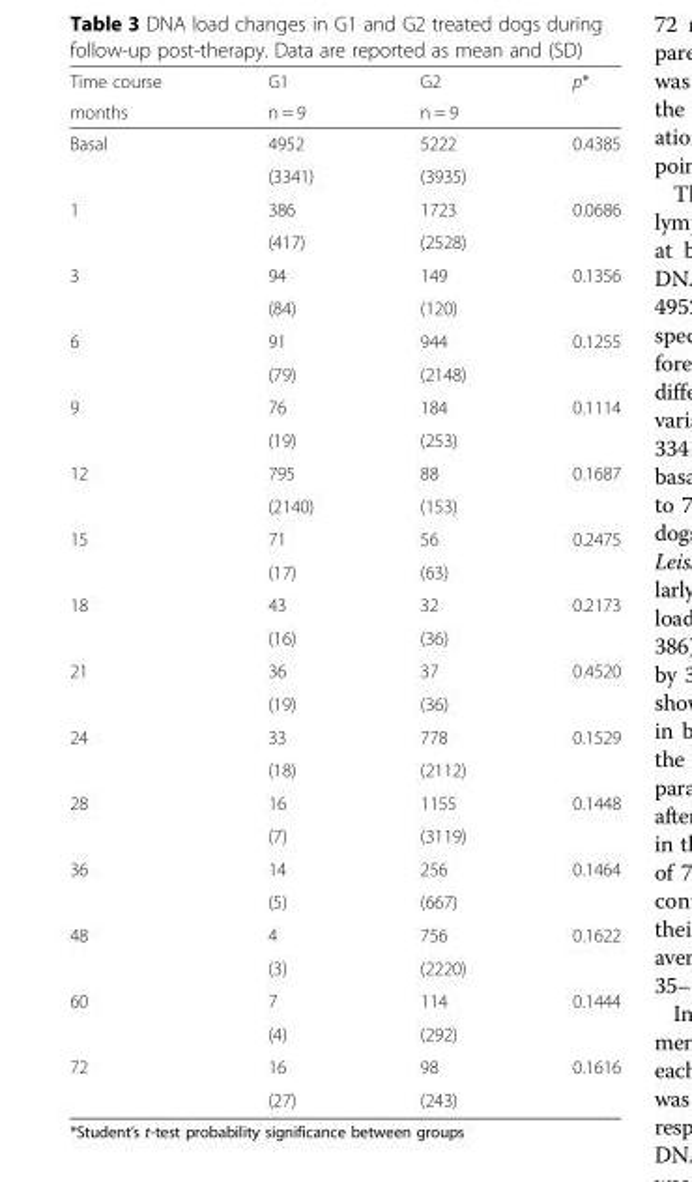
<table><thead><tr><td rowspan="2">Time course months</td><td rowspan="2">G1 n = 9</td><td rowspan="2">G2 n = 9</td><td rowspan="2">p*</td></tr><tr></tr></thead><tbody><tr><td rowspan="2">Basal</td><td>4952</td><td>5222</td><td rowspan="2">0.4385</td></tr><tr><td>(3341)</td><td>(3935)</td></tr><tr><td rowspan="2">1</td><td>386</td><td>1723</td><td rowspan="2">0.0686</td></tr><tr><td>(417)</td><td>(2528)</td></tr><tr><td rowspan="2">3</td><td>94</td><td>149</td><td rowspan="2">0.1356</td></tr><tr><td>(84)</td><td>(120)</td></tr><tr><td rowspan="2">6</td><td>91</td><td>944</td><td rowspan="2">0.1255</td></tr><tr><td>(79)</td><td>(2148)</td></tr><tr><td rowspan="2">9</td><td>76</td><td>184</td><td rowspan="2">0.1114</td></tr><tr><td>(19)</td><td>(253)</td></tr><tr><td rowspan="2">12</td><td>795</td><td>88</td><td rowspan="2">0.1687</td></tr><tr><td>(2140)</td><td>(153)</td></tr><tr><td rowspan="2">15</td><td>71</td><td>56</td><td rowspan="2">0.2475</td></tr><tr><td>(17)</td><td>(63)</td></tr><tr><td rowspan="2">18</td><td>43</td><td>32</td><td rowspan="2">0.2173</td></tr><tr><td>(16)</td><td>(36)</td></tr><tr><td rowspan="2">21</td><td>36</td><td>37</td><td rowspan="2">0.4520</td></tr><tr><td>(19)</td><td>(36)</td></tr><tr><td rowspan="2">24</td><td>33</td><td>778</td><td rowspan="2">0.1529</td></tr><tr><td>(18)</td><td>(2112)</td></tr><tr><td rowspan="2">28</td><td>16</td><td>1155</td><td rowspan="2">0.1448</td></tr><tr><td>(7)</td><td>(3119)</td></tr><tr><td rowspan="2">36</td><td>14</td><td>256</td><td rowspan="2">0.1464</td></tr><tr><td>(5)</td><td>(667)</td></tr><tr><td rowspan="2">48</td><td>4</td><td>756</td><td rowspan="2">0.1622</td></tr><tr><td>(3)</td><td>(2220)</td></tr><tr><td rowspan="2">60</td><td>7</td><td>114</td><td rowspan="2">0.1444</td></tr><tr><td>(4)</td><td>(292)</td></tr><tr><td rowspan="2">72</td><td>16</td><td>98</td><td rowspan="2">0.1616</td></tr><tr><td>(27)</td><td>(243)</td></tr></tbody></table>